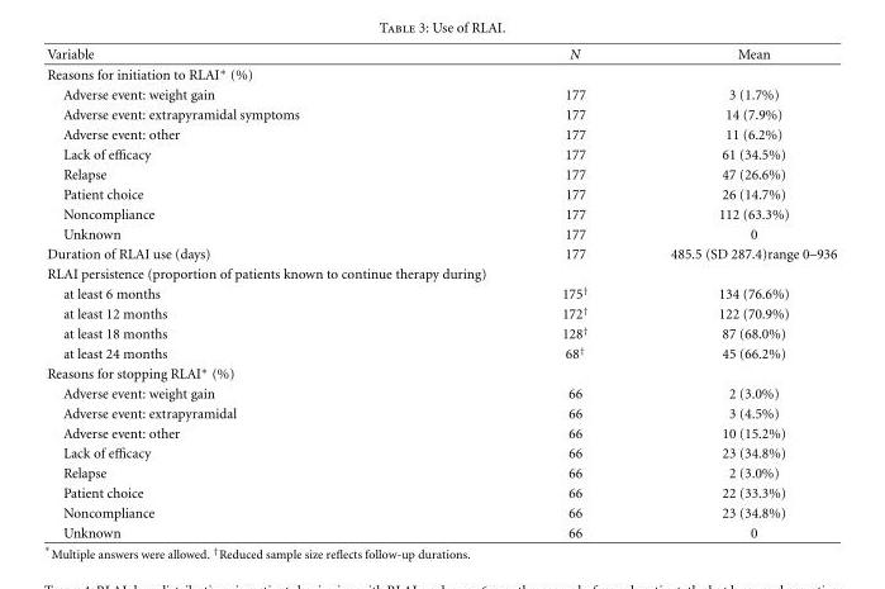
<table><thead><tr><td>Variable</td><td>N</td><td>Mean</td></tr></thead><tbody><tr><td colspan="3">Reasons for initiation to RLAI∗ (%)</td></tr><tr><td>Adverse event: weight gain</td><td>177</td><td>3 (1.7%)</td></tr><tr><td>Adverse event: extrapyramidal symptoms</td><td>177</td><td>14 (7.9%)</td></tr><tr><td>Adverse event: other</td><td>177</td><td>11 (6.2%)</td></tr><tr><td>Lack of efficacy</td><td>177</td><td>61 (34.5%)</td></tr><tr><td>Relapse</td><td>177</td><td>47 (26.6%)</td></tr><tr><td>Patient choice</td><td>177</td><td>26 (14.7%)</td></tr><tr><td>Noncompliance</td><td>177</td><td>112 (63.3%)</td></tr><tr><td>Unknown</td><td>177</td><td>0</td></tr><tr><td>Duration of RLAI use (days)</td><td>177</td><td>485.5 (SD 287.4)range 0–936</td></tr><tr><td colspan="3">RLAI persistence (proportion of patients known to continue therapy during)</td></tr><tr><td>at least 6 months</td><td>175<sup>†</sup></td><td>134 (76.6%)</td></tr><tr><td>at least 12 months</td><td>172<sup>†</sup></td><td>122 (70.9%)</td></tr><tr><td>at least 18 months</td><td>128<sup>†</sup></td><td>87 (68.0%)</td></tr><tr><td>at least 24 months</td><td>68<sup>†</sup></td><td>45 (66.2%)</td></tr><tr><td colspan="3">Reasons for stopping RLAI∗ (%)</td></tr><tr><td>Adverse event: weight gain</td><td>66</td><td>2 (3.0%)</td></tr><tr><td>Adverse event: extrapyramidal</td><td>66</td><td>3 (4.5%)</td></tr><tr><td>Adverse event: other</td><td>66</td><td>10 (15.2%)</td></tr><tr><td>Lack of efficacy</td><td>66</td><td>23 (34.8%)</td></tr><tr><td>Relapse</td><td>66</td><td>2 (3.0%)</td></tr><tr><td>Patient choice</td><td>66</td><td>22 (33.3%)</td></tr><tr><td>Noncompliance</td><td>66</td><td>23 (34.8%)</td></tr><tr><td>Unknown</td><td>66</td><td>0</td></tr></tbody></table>